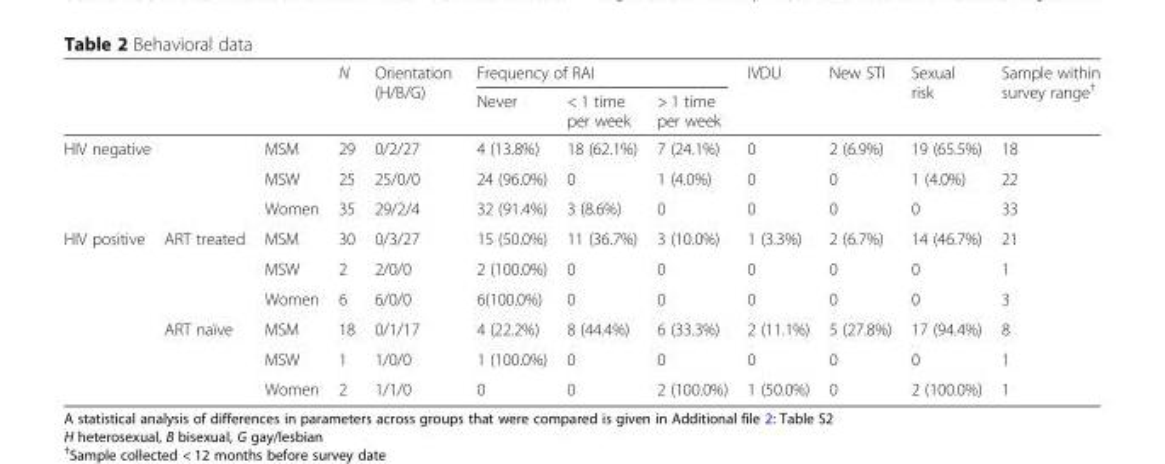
<table><thead><tr><td rowspan="2"></td><td rowspan="2"></td><td rowspan="2"></td><td rowspan="2">N</td><td rowspan="2">Orientation (H/B/G)</td><td colspan="3">Frequency of RAI</td><td rowspan="2">IVDU</td><td rowspan="2">New STI</td><td rowspan="2">Sexual risk</td><td rowspan="2">Sample within survey range<sup>†</sup></td></tr><tr><td>Never</td><td>&lt; 1 time per week</td><td>&gt; 1 time per week</td></tr></thead><tbody><tr><td rowspan="3" colspan="2">HIV negative</td><td>MSM</td><td>29</td><td>0/2/27</td><td>4 (13.8%)</td><td>18 (62.1%)</td><td>7 (24.1%)</td><td>0</td><td>2 (6.9%)</td><td>19 (65.5%)</td><td>18</td></tr><tr><td>MSW</td><td>25</td><td>25/0/0</td><td>24 (96.0%)</td><td>0</td><td>1 (4.0%)</td><td>0</td><td>0</td><td>1 (4.0%)</td><td>22</td></tr><tr><td>Women</td><td>35</td><td>29/2/4</td><td>32 (91.4%)</td><td>3 (8.6%)</td><td>0</td><td>0</td><td>0</td><td>0</td><td>33</td></tr><tr><td rowspan="6">HIV positive</td><td rowspan="3">ART treated</td><td>MSM</td><td>30</td><td>0/3/27</td><td>15 (50.0%)</td><td>11 (36.7%)</td><td>3 (10.0%)</td><td>1 (3.3%)</td><td>2 (6.7%)</td><td>14 (46.7%)</td><td>21</td></tr><tr><td>MSW</td><td>2</td><td>2/0/0</td><td>2 (100.0%)</td><td>0</td><td>0</td><td>0</td><td>0</td><td>0</td><td>1</td></tr><tr><td>Women</td><td>6</td><td>6/0/0</td><td>6(100.0%)</td><td>0</td><td>0</td><td>0</td><td>0</td><td>0</td><td>3</td></tr><tr><td rowspan="3">ART naïve</td><td>MSM</td><td>18</td><td>0/1/17</td><td>4 (22.2%)</td><td>8 (44.4%)</td><td>6 (33.3%)</td><td>2 (11.1%)</td><td>5 (27.8%)</td><td>17 (94.4%)</td><td>8</td></tr><tr><td>MSW</td><td>1</td><td>1/0/0</td><td>1 (100.0%)</td><td>0</td><td>0</td><td>0</td><td>0</td><td>0</td><td>1</td></tr><tr><td>Women</td><td>2</td><td>1/1/0</td><td>0</td><td>0</td><td>2 (100.0%)</td><td>1 (50.0%)</td><td>0</td><td>2 (100.0%)</td><td>1</td></tr></tbody></table>